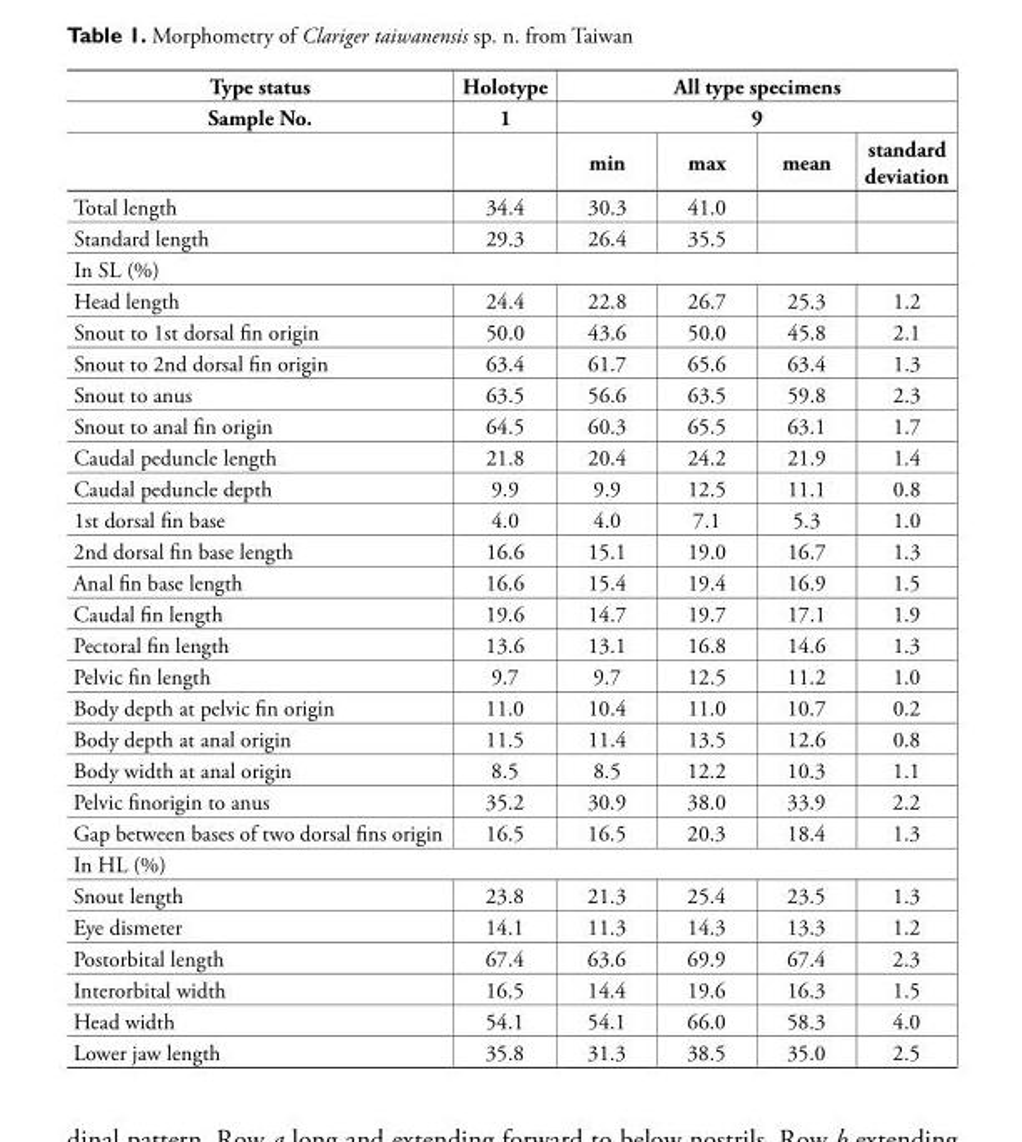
<table><thead><tr><td rowspan="3">Type status Sample No.</td><td rowspan="3">Holotype 1</td><td rowspan="2" colspan="4">All type specimens 9</td></tr><tr></tr><tr><td>min</td><td>max</td><td>mean</td><td>standard deviation</td></tr></thead><tbody><tr><td>Total length</td><td>34.4</td><td>30.3</td><td>41.0</td><td></td><td></td></tr><tr><td>Standard length</td><td>29.3</td><td>26.4</td><td>35.5</td><td></td><td></td></tr><tr><td colspan="6">In SL (%)</td></tr><tr><td>Head length</td><td>24.4</td><td>22.8</td><td>26.7</td><td>25.3</td><td>1.2</td></tr><tr><td>Snout to 1st dorsal fin origin</td><td>50.0</td><td>43.6</td><td>50.0</td><td>45.8</td><td>2.1</td></tr><tr><td>Snout to 2nd dorsal fin origin</td><td>63.4</td><td>61.7</td><td>65.6</td><td>63.4</td><td>1.3</td></tr><tr><td>Snout to anus</td><td>63.5</td><td>56.6</td><td>63.5</td><td>59.8</td><td>2.3</td></tr><tr><td>Snout to anal fin origin</td><td>64.5</td><td>60.3</td><td>65.5</td><td>63.1</td><td>1.7</td></tr><tr><td>Caudal peduncle length</td><td>21.8</td><td>20.4</td><td>24.2</td><td>21.9</td><td>1.4</td></tr><tr><td>Caudal peduncle depth</td><td>9.9</td><td>9.9</td><td>12.5</td><td>11.1</td><td>0.8</td></tr><tr><td>1st dorsal fin base</td><td>4.0</td><td>4.0</td><td>7.1</td><td>5.3</td><td>1.0</td></tr><tr><td>2nd dorsal fin base length</td><td>16.6</td><td>15.1</td><td>19.0</td><td>16.7</td><td>1.3</td></tr><tr><td>Anal fin base length</td><td>16.6</td><td>15.4</td><td>19.4</td><td>16.9</td><td>1.5</td></tr><tr><td>Caudal fin length</td><td>19.6</td><td>14.7</td><td>19.7</td><td>17.1</td><td>1.9</td></tr><tr><td>Pectoral fin length</td><td>13.6</td><td>13.1</td><td>16.8</td><td>14.6</td><td>1.3</td></tr><tr><td>Pelvic fin length</td><td>9.7</td><td>9.7</td><td>12.5</td><td>11.2</td><td>1.0</td></tr><tr><td>Body depth at pelvic fin origin</td><td>11.0</td><td>10.4</td><td>11.0</td><td>10.7</td><td>0.2</td></tr><tr><td>Body depth at anal origin</td><td>11.5</td><td>11.4</td><td>13.5</td><td>12.6</td><td>0.8</td></tr><tr><td>Body width at anal origin</td><td>8.5</td><td>8.5</td><td>12.2</td><td>10.3</td><td>1.1</td></tr><tr><td>Pelvic finorigin to anus</td><td>35.2</td><td>30.9</td><td>38.0</td><td>33.9</td><td>2.2</td></tr><tr><td>Gap between bases of two dorsal fins origin</td><td>16.5</td><td>16.5</td><td>20.3</td><td>18.4</td><td>1.3</td></tr><tr><td colspan="6">In HL (%)</td></tr><tr><td>Snout length</td><td>23.8</td><td>21.3</td><td>25.4</td><td>23.5</td><td>1.3</td></tr><tr><td>Eye dismeter</td><td>14.1</td><td>11.3</td><td>14.3</td><td>13.3</td><td>1.2</td></tr><tr><td>Postorbital length</td><td>67.4</td><td>63.6</td><td>69.9</td><td>67.4</td><td>2.3</td></tr><tr><td>Interorbital width</td><td>16.5</td><td>14.4</td><td>19.6</td><td>16.3</td><td>1.5</td></tr><tr><td>Head width</td><td>54.1</td><td>54.1</td><td>66.0</td><td>58.3</td><td>4.0</td></tr><tr><td>Lower jaw length</td><td>35.8</td><td>31.3</td><td>38.5</td><td>35.0</td><td>2.5</td></tr></tbody></table>